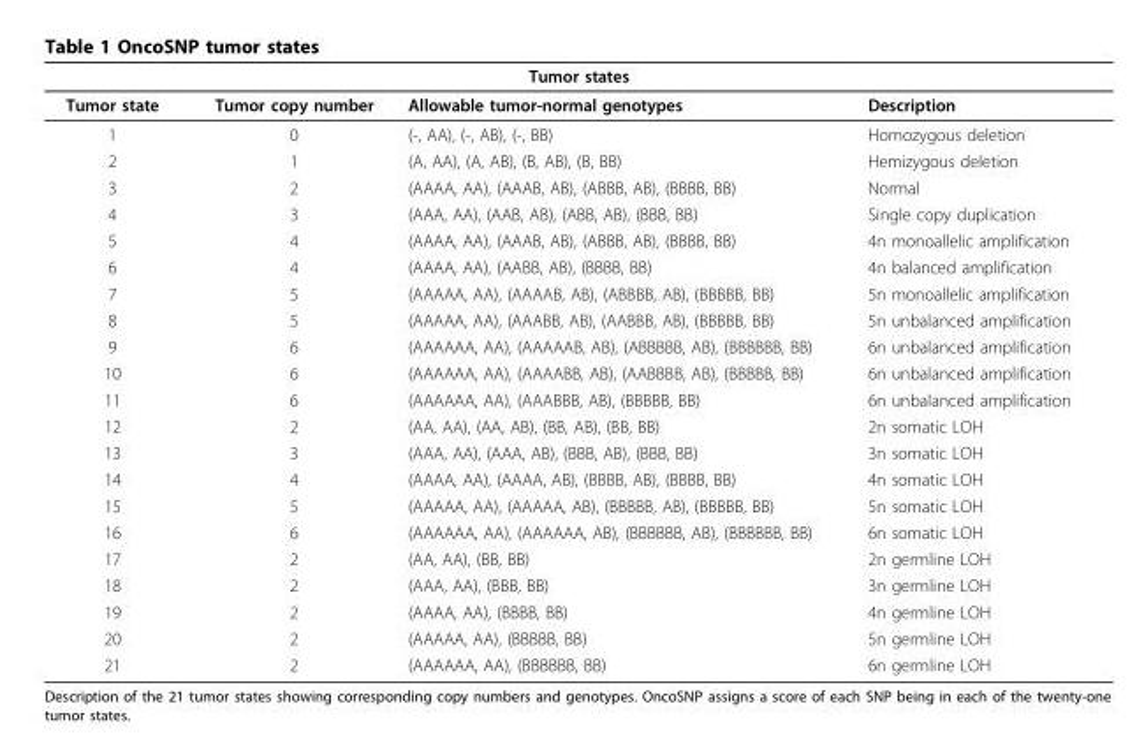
<table><thead><tr><td colspan="4">Tumor states</td></tr><tr><td>Tumor state</td><td>Tumor copy number</td><td>Allowable tumor-normal genotypes</td><td>Description</td></tr></thead><tbody><tr><td>1</td><td>0</td><td>(-, AA), (-, AB), (-, BB)</td><td>Homozygous deletion</td></tr><tr><td>2</td><td>1</td><td>(A, AA), (A, AB), (B, AB), (B, BB)</td><td>Hemizygous deletion</td></tr><tr><td>3</td><td>2</td><td>(AAAA, AA), (AAAB, AB), (ABBB, AB), (BBBB, BB)</td><td>Normal</td></tr><tr><td>4</td><td>3</td><td>(AAA, AA), (AAB, AB), (ABB, AB), (BBB, BB)</td><td>Single copy duplication</td></tr><tr><td>5</td><td>4</td><td>(AAAA, AA), (AAAB, AB), (ABBB, AB), (BBBB, BB)</td><td>4n monoallelic amplification</td></tr><tr><td>6</td><td>4</td><td>(AAAA, AA), (AABB, AB), (BBBB, BB)</td><td>4n balanced amplification</td></tr><tr><td>7</td><td>5</td><td>(AAAAA, AA), (AAAAB, AB), (ABBBB, AB), (BBBBB, BB)</td><td>5n monoallelic amplification</td></tr><tr><td>8</td><td>5</td><td>(AAAAA, AA), (AAABB, AB), (AABBB, AB), (BBBBB, BB)</td><td>5n unbalanced amplification</td></tr><tr><td>9</td><td>6</td><td>(AAAAAA, AA), (AAAAAB, AB), (ABBBBB, AB), (BBBBBB, BB)</td><td>6n unbalanced amplification</td></tr><tr><td>10</td><td>6</td><td>(AAAAAA, AA), (AAAABB, AB), (AABBBB, AB), (BBBBB, BB)</td><td>6n unbalanced amplification</td></tr><tr><td>11</td><td>6</td><td>(AAAAAA, AA), (AAABBB, AB), (BBBBB, BB)</td><td>6n unbalanced amplification</td></tr><tr><td>12</td><td>2</td><td>(AA, AA), (AA, AB), (BB, AB), (BB, BB)</td><td>2n somatic LOH</td></tr><tr><td>13</td><td>3</td><td>(AAA, AA), (AAA, AB), (BBB, AB), (BBB, BB)</td><td>3n somatic LOH</td></tr><tr><td>14</td><td>4</td><td>(AAAA, AA), (AAAA, AB), (BBBB, AB), (BBBB, BB)</td><td>4n somatic LOH</td></tr><tr><td>15</td><td>5</td><td>(AAAAA, AA), (AAAAA, AB), (BBBBB, AB), (BBBBB, BB)</td><td>5n somatic LOH</td></tr><tr><td>16</td><td>6</td><td>(AAAAAA, AA), (AAAAAA, AB), (BBBBBB, AB), (BBBBBB, BB)</td><td>6n somatic LOH</td></tr><tr><td>17</td><td>2</td><td>(AA, AA), (BB, BB)</td><td>2n germline LOH</td></tr><tr><td>18</td><td>2</td><td>(AAA, AA), (BBB, BB)</td><td>3n germline LOH</td></tr><tr><td>19</td><td>2</td><td>(AAAA, AA), (BBBB, BB)</td><td>4n germline LOH</td></tr><tr><td>20</td><td>2</td><td>(AAAAA, AA), (BBBBB, BB)</td><td>5n germline LOH</td></tr><tr><td>21</td><td>2</td><td>(AAAAAA, AA), (BBBBBB, BB)</td><td>6n germline LOH</td></tr></tbody></table>